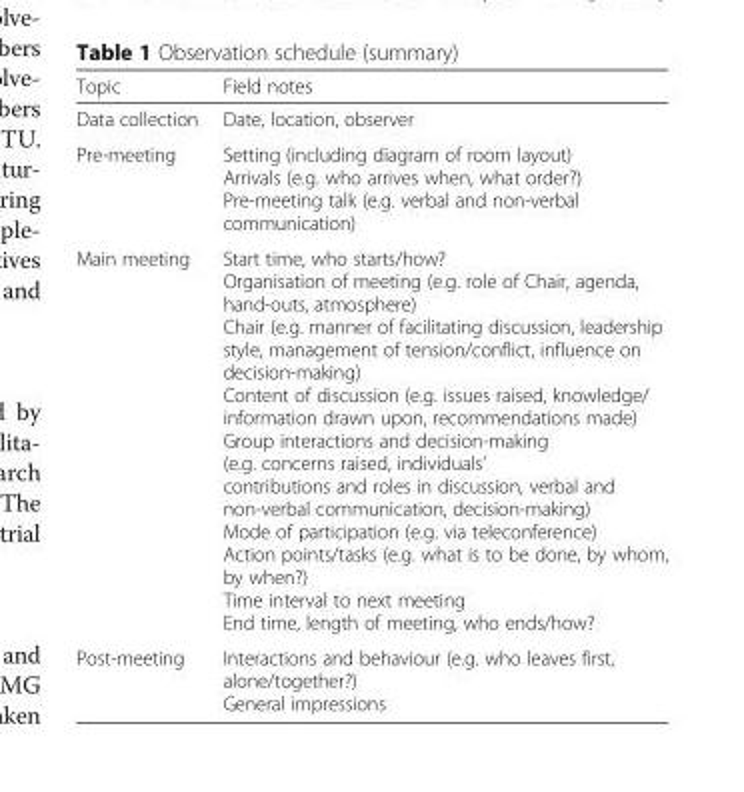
<table><thead><tr><td>Topic</td><td>Field notes</td></tr></thead><tbody><tr><td>Data collection</td><td>Date, location, observer</td></tr><tr><td>Pre-meeting</td><td>Setting (including diagram of room layout) Arrivals (e.g. who arrives when, what order?) Pre-meeting talk (e.g. verbal and non-verbal communication)</td></tr><tr><td>Main meeting</td><td>Start time, who starts/how? Organisation of meeting (e.g. role of Chair, agenda, hand-outs, atmosphere) Chair (e.g. manner of facilitating discussion, leadership style, management of tension/conflict, influence on decision-making) Content of discussion (e.g. issues raised, knowledge/ information drawn upon, recommendations made) Group interactions and decision-making (e.g. concerns raised, individuals’ contributions and roles in discussion, verbal and non-verbal communication, decision-making) Mode of participation (e.g. via teleconference) Action points/tasks (e.g. what is to be done, by whom, by when?) Time interval to next meeting End time, length of meeting, who ends/how?</td></tr><tr><td>Post-meeting</td><td>Interactions and behaviour (e.g. who leaves first, alone/together?) General impressions</td></tr></tbody></table>